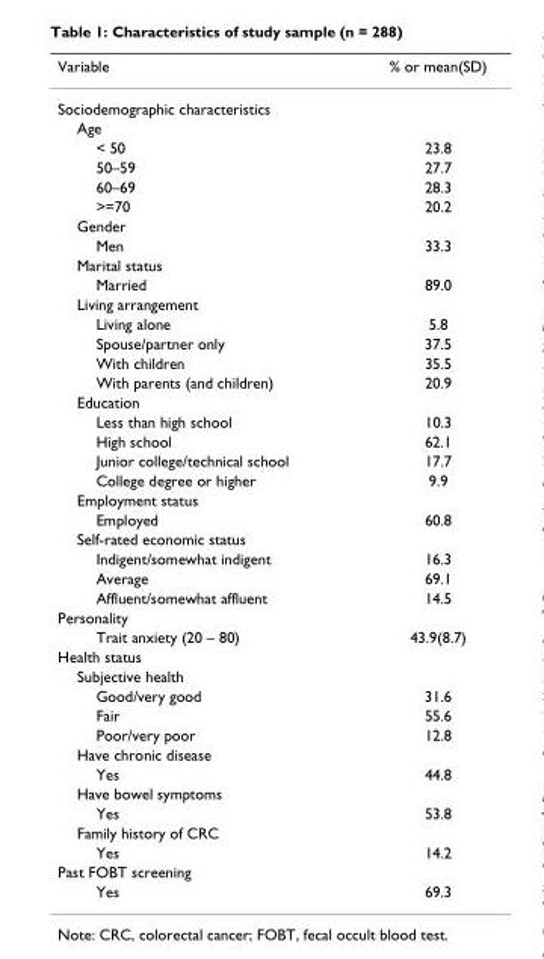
<table><thead><tr><td>Variable</td><td>% or mean(SD)</td></tr></thead><tbody><tr><td colspan="2">Sociodemographic characteristics</td></tr><tr><td colspan="2">Age</td></tr><tr><td>&lt; 50</td><td>23.8</td></tr><tr><td>50–59</td><td>27.7</td></tr><tr><td>60–69</td><td>28.3</td></tr><tr><td>&gt;=70</td><td>20.2</td></tr><tr><td colspan="2">Gender</td></tr><tr><td>Men</td><td>33.3</td></tr><tr><td colspan="2">Marital status</td></tr><tr><td>Married</td><td>89.0</td></tr><tr><td colspan="2">Living arrangement</td></tr><tr><td>Living alone</td><td>5.8</td></tr><tr><td>Spouse/partner only</td><td>37.5</td></tr><tr><td>With children</td><td>35.5</td></tr><tr><td>With parents (and children)</td><td>20.9</td></tr><tr><td colspan="2">Education</td></tr><tr><td>Less than high school</td><td>10.3</td></tr><tr><td>High school</td><td>62.1</td></tr><tr><td>Junior college/technical school</td><td>17.7</td></tr><tr><td>College degree or higher</td><td>9.9</td></tr><tr><td colspan="2">Employment status</td></tr><tr><td>Employed</td><td>60.8</td></tr><tr><td colspan="2">Self-rated economic status</td></tr><tr><td>Indigent/somewhat indigent</td><td>16.3</td></tr><tr><td>Average</td><td>69.1</td></tr><tr><td>Affluent/somewhat affluent</td><td>14.5</td></tr><tr><td colspan="2">Personality</td></tr><tr><td>Trait anxiety (20 – 80)</td><td>43.9(8.7)</td></tr><tr><td colspan="2">Health status</td></tr><tr><td colspan="2">Subjective health</td></tr><tr><td>Good/very good</td><td>31.6</td></tr><tr><td>Fair</td><td>55.6</td></tr><tr><td>Poor/very poor</td><td>12.8</td></tr><tr><td colspan="2">Have chronic disease</td></tr><tr><td>Yes</td><td>44.8</td></tr><tr><td colspan="2">Have bowel symptoms</td></tr><tr><td>Yes</td><td>53.8</td></tr><tr><td colspan="2">Family history of CRC</td></tr><tr><td>Yes</td><td>14.2</td></tr><tr><td colspan="2">Past FOBT screening</td></tr><tr><td>Yes</td><td>69.3</td></tr></tbody></table>